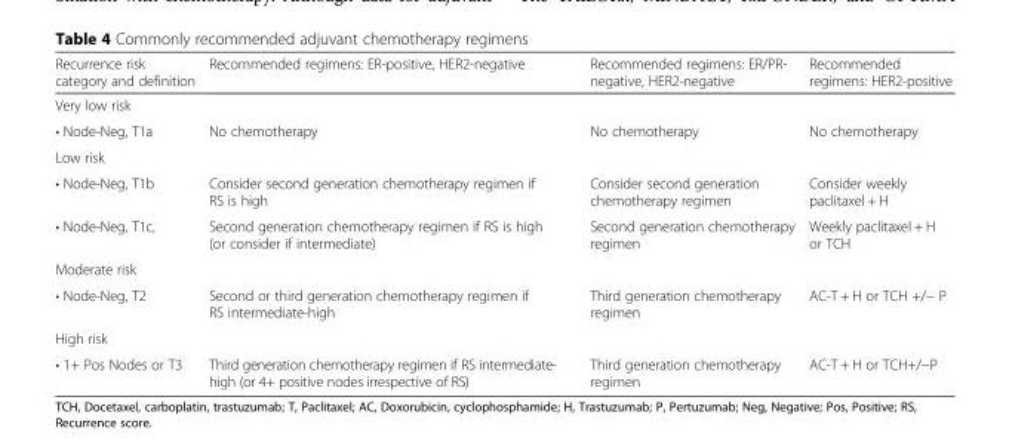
<table><thead><tr><td>Recurrence risk category and definition</td><td>Recommended regimens: ER-positive, HER2-negative</td><td>Recommended regimens: ER/PR- negative, HER2-negative</td><td>Recommended regimens: HER2-positive</td></tr></thead><tbody><tr><td colspan="4">Very low risk</td></tr><tr><td>• Node-Neg, T1a</td><td>No chemotherapy</td><td>No chemotherapy</td><td>No chemotherapy</td></tr><tr><td colspan="4">Low risk</td></tr><tr><td>• Node-Neg, T1b</td><td>Consider second generation chemotherapy regimen if RS is high</td><td>Consider second generation chemotherapy regimen</td><td>Consider weekly paclitaxel + H</td></tr><tr><td>• Node-Neg, T1c,</td><td>Second generation chemotherapy regimen if RS is high (or consider if intermediate)</td><td>Second generation chemotherapy regimen</td><td>Weekly paclitaxel + H or TCH</td></tr><tr><td colspan="4">Moderate risk</td></tr><tr><td>• Node-Neg, T2</td><td>Second or third generation chemotherapy regimen if RS intermediate-high</td><td>Third generation chemotherapy regimen</td><td>AC-T + H or TCH +/− P</td></tr><tr><td colspan="4">High risk</td></tr><tr><td>• 1+ Pos Nodes or T3</td><td>Third generation chemotherapy regimen if RS intermediate- high (or 4+ positive nodes irrespective of RS)</td><td>Third generation chemotherapy regimen</td><td>AC-T + H or TCH+/−P</td></tr></tbody></table>